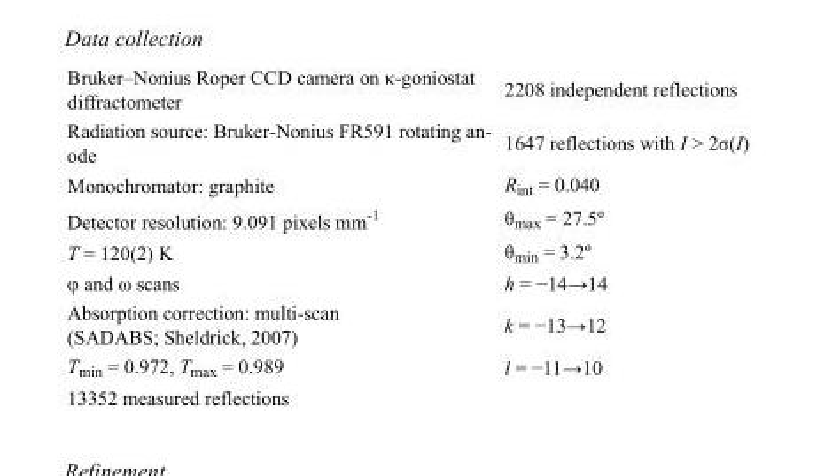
<table><tbody><tr><td>Bruker–Nonius Roper CCD camera on κ-goniostat diffractometer</td><td>2208 independent reflections</td></tr><tr><td>Radiation source: Bruker-Nonius FR591 rotating an- ode</td><td>1647 reflections with I &gt; 2σ(I)</td></tr><tr><td>Monochromator: graphite</td><td>R<sub>int</sub> = 0.040</td></tr><tr><td>Detector resolution: 9.091 pixels mm<sup>-1</sup></td><td>θ<sub>max</sub> = 27.5º</td></tr><tr><td>T = 120(2) K</td><td>θ<sub>min</sub> = 3.2º</td></tr><tr><td>φ and ω scans</td><td>h = −14→14</td></tr><tr><td>Absorption correction: multi-scan (SADABS; Sheldrick, 2007)</td><td>k = −13→12</td></tr><tr><td>T<sub>min</sub> = 0.972, T<sub>max</sub> = 0.989</td><td>l = −11→10</td></tr><tr><td>13352 measured reflections</td><td></td></tr></tbody></table>